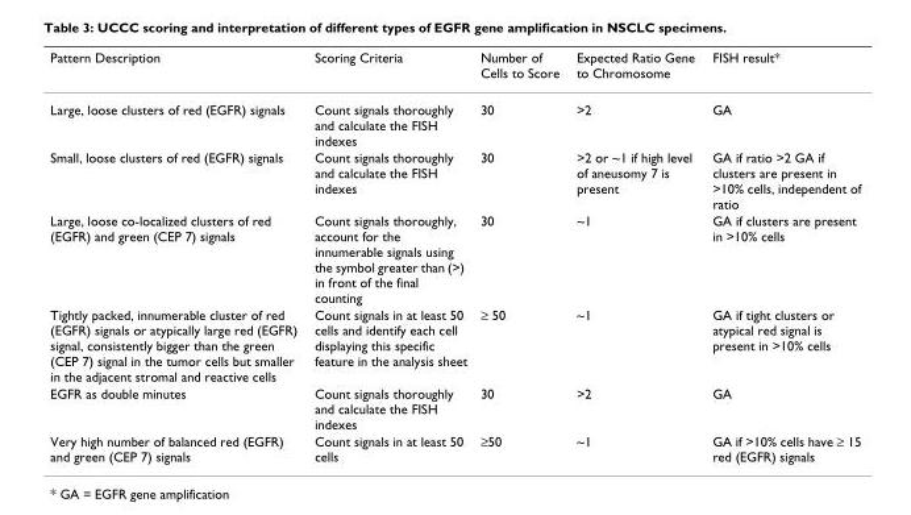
<table><thead><tr><td>Pattern Description</td><td>Scoring Criteria</td><td>Number of Cells to Score</td><td>Expected Ratio Gene to Chromosome</td><td>FISH result*</td></tr></thead><tbody><tr><td>Large, loose clusters of red (EGFR) signals</td><td>Count signals thoroughly and calculate the FISH indexes</td><td>30</td><td>&gt;2</td><td>GA</td></tr><tr><td>Small, loose clusters of red (EGFR) signals</td><td>Count signals thoroughly and calculate the FISH indexes</td><td>30</td><td>&gt;2 or ~1 if high level of aneusomy 7 is present</td><td>GA if ratio &gt;2 GA if clusters are present in &gt;10% cells, independent of ratio</td></tr><tr><td>Large, loose co-localized clusters of red (EGFR) and green (CEP 7) signals</td><td>Count signals thoroughly, account for the innumerable signals using the symbol greater than (&gt;) in front of the final counting</td><td>30</td><td>~1</td><td>GA if clusters are present in &gt;10% cells</td></tr><tr><td>Tightly packed, innumerable cluster of red (EGFR) signals or atypically large red (EGFR) signal, consistently bigger than the green (CEP 7) signal in the tumor cells but smaller in the adjacent stromal and reactive cells</td><td>Count signals in at least 50 cells and identify each cell displaying this specific feature in the analysis sheet</td><td>≥ 50</td><td>~1</td><td>GA if tight clusters or atypical red signal is present in &gt;10% cells</td></tr><tr><td>EGFR as double minutes</td><td>Count signals thoroughly and calculate the FISH indexes</td><td>30</td><td>&gt;2</td><td>GA</td></tr><tr><td>Very high number of balanced red (EGFR) and green (CEP 7) signals</td><td>Count signals in at least 50 cells</td><td>≥50</td><td>~1</td><td>GA if &gt;10% cells have ≥ 15 red (EGFR) signals</td></tr></tbody></table>